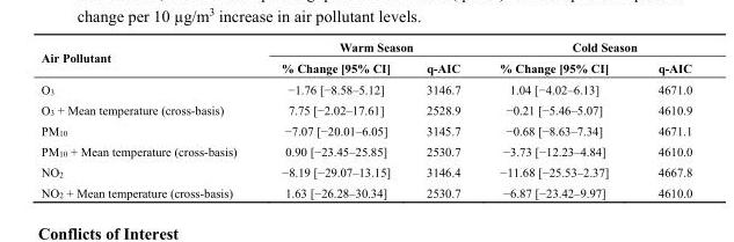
<table><thead><tr><td rowspan="2">Air Pollutant</td><td colspan="2">Warm Season</td><td colspan="2">Cold Season</td></tr><tr><td>% Change [95% CI]</td><td>q-AIC</td><td>% Change [95% CI]</td><td>q-AIC</td></tr></thead><tbody><tr><td>O<sub>3</sub></td><td>−1.76 [−8.58–5.12]</td><td>3146.7</td><td>1.04 [−4.02–6.13]</td><td>4671.0</td></tr><tr><td>O<sub>3</sub> + Mean temperature (cross-basis)</td><td>7.75 [−2.02–17.61]</td><td>2528.9</td><td>−0.21 [−5.46–5.07]</td><td>4610.9</td></tr><tr><td>PM<sub>10</sub></td><td>−7.07 [−20.01–6.05]</td><td>3145.7</td><td>−0.68 [−8.63–7.34]</td><td>4671.1</td></tr><tr><td>PM<sub>10</sub> + Mean temperature (cross-basis)</td><td>0.90 [−23.45–25.85]</td><td>2530.7</td><td>−3.73 [−12.23–4.84]</td><td>4610.0</td></tr><tr><td>NO<sub>2</sub></td><td>−8.19 [−29.07–13.15]</td><td>3146.4</td><td>−11.68 [−25.53–2.37]</td><td>4667.8</td></tr><tr><td>NO<sub>2</sub> + Mean temperature (cross-basis)</td><td>1.63 [−26.28–30.34]</td><td>2530.7</td><td>−6.87 [−23.42–9.97]</td><td>4610.0</td></tr></tbody></table>